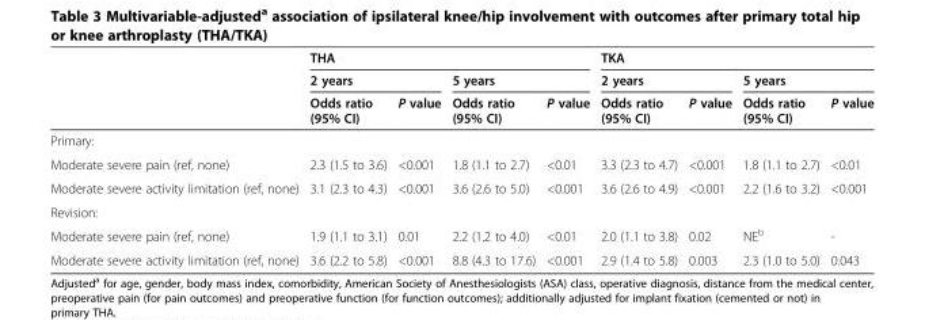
<table><thead><tr><td rowspan="3"></td><td colspan="4">THA</td><td colspan="4">TKA</td></tr><tr><td colspan="2">2 years</td><td colspan="2">5 years</td><td colspan="2">2 years</td><td colspan="2">5 years</td></tr><tr><td>Odds ratio (95% CI)</td><td>P value</td><td>Odds ratio (95% CI)</td><td>P value</td><td>Odds ratio (95% CI)</td><td>P value</td><td>Odds ratio (95% CI)</td><td>P value</td></tr></thead><tbody><tr><td colspan="9">Primary:</td></tr><tr><td>Moderate severe pain (ref, none)</td><td>2.3 (1.5 to 3.6)</td><td>&lt;0.001</td><td>1.8 (1.1 to 2.7)</td><td>&lt;0.01</td><td>3.3 (2.3 to 4.7)</td><td>&lt;0.001</td><td>1.8 (1.1 to 2.7)</td><td>&lt;0.01</td></tr><tr><td>Moderate severe activity limitation (ref, none)</td><td>3.1 (2.3 to 4.3)</td><td>&lt;0.001</td><td>3.6 (2.6 to 5.0)</td><td>&lt;0.001</td><td>3.6 (2.6 to 4.9)</td><td>&lt;0.001</td><td>2.2 (1.6 to 3.2)</td><td>&lt;0.001</td></tr><tr><td colspan="9">Revision:</td></tr><tr><td>Moderate severe pain (ref, none)</td><td>1.9 (1.1 to 3.1)</td><td>0.01</td><td>2.2 (1.2 to 4.0)</td><td>&lt;0.01</td><td>2.0 (1.1 to 3.8)</td><td>0.02</td><td>NE<sup>b</sup></td><td>-</td></tr><tr><td>Moderate severe activity limitation (ref, none)</td><td>3.6 (2.2 to 5.8)</td><td>&lt;0.001</td><td>8.8 (4.3 to 17.6)</td><td>&lt;0.001</td><td>2.9 (1.4 to 5.8)</td><td>0.003</td><td>2.3 (1.0 to 5.0)</td><td>0.043</td></tr></tbody></table>